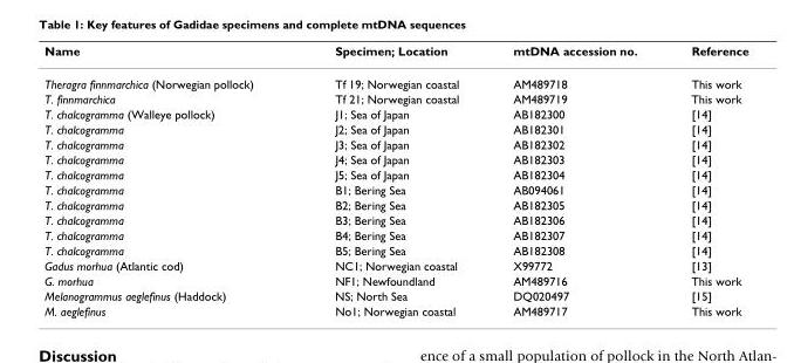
<table><thead><tr><td>Name</td><td>Specimen; Location</td><td>mtDNA accession no.</td><td>Reference</td></tr></thead><tbody><tr><td>Theragra finnmarchica (Norwegian pollock)</td><td>Tf 19; Norwegian coastal</td><td>AM489718</td><td>This work</td></tr><tr><td>T. finnmarchica</td><td>Tf 21; Norwegian coastal</td><td>AM489719</td><td>This work</td></tr><tr><td>T. chalcogramma (Walleye pollock)</td><td>J1; Sea of Japan</td><td>AB182300</td><td>[14]</td></tr><tr><td>T. chalcogramma</td><td>J2; Sea of Japan</td><td>AB182301</td><td>[14]</td></tr><tr><td>T. chalcogramma</td><td>J3; Sea of Japan</td><td>AB182302</td><td>[14]</td></tr><tr><td>T. chalcogramma</td><td>J4; Sea of Japan</td><td>AB182303</td><td>[14]</td></tr><tr><td>T. chalcogramma</td><td>J5; Sea of Japan</td><td>AB182304</td><td>[14]</td></tr><tr><td>T. chalcogramma</td><td>B1; Bering Sea</td><td>AB094061</td><td>[14]</td></tr><tr><td>T. chalcogramma</td><td>B2; Bering Sea</td><td>AB182305</td><td>[14]</td></tr><tr><td>T. chalcogramma</td><td>B3; Bering Sea</td><td>AB182306</td><td>[14]</td></tr><tr><td>T. chalcogramma</td><td>B4; Bering Sea</td><td>AB182307</td><td>[14]</td></tr><tr><td>T. chalcogramma</td><td>B5; Bering Sea</td><td>AB182308</td><td>[14]</td></tr><tr><td>Gadus morhua (Atlantic cod)</td><td>NC1; Norwegian coastal</td><td>X99772</td><td>[13]</td></tr><tr><td>G. morhua</td><td>NF1; Newfoundland</td><td>AM489716</td><td>This work</td></tr><tr><td>Melanogrammus aeglefinus (Haddock)</td><td>NS; North Sea</td><td>DQ020497</td><td>[15]</td></tr><tr><td>M. aeglefinus</td><td>No1; Norwegian coastal</td><td>AM489717</td><td>This work</td></tr></tbody></table>